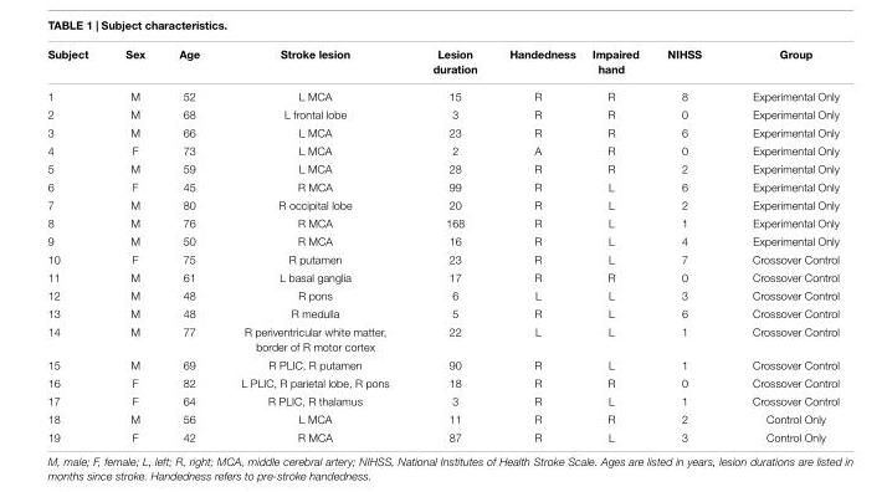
<table><thead><tr><td>Subject</td><td>Sex</td><td>Age</td><td>Stroke lesion</td><td>Lesion duration</td><td>Handedness</td><td>Impaired hand</td><td>NIHSS</td><td>Group</td></tr></thead><tbody><tr><td>1</td><td>M</td><td>52</td><td>L MCA</td><td>15</td><td>R</td><td>R</td><td>8</td><td>Experimental Only</td></tr><tr><td>2</td><td>M</td><td>68</td><td>L frontal lobe</td><td>3</td><td>R</td><td>R</td><td>0</td><td>Experimental Only</td></tr><tr><td>3</td><td>M</td><td>66</td><td>L MCA</td><td>23</td><td>R</td><td>R</td><td>6</td><td>Experimental Only</td></tr><tr><td>4</td><td>F</td><td>73</td><td>L MCA</td><td>2</td><td>A</td><td>R</td><td>0</td><td>Experimental Only</td></tr><tr><td>5</td><td>M</td><td>59</td><td>L MCA</td><td>28</td><td>R</td><td>R</td><td>2</td><td>Experimental Only</td></tr><tr><td>6</td><td>F</td><td>45</td><td>R MCA</td><td>99</td><td>R</td><td>L</td><td>6</td><td>Experimental Only</td></tr><tr><td>7</td><td>M</td><td>80</td><td>R occipital lobe</td><td>20</td><td>R</td><td>L</td><td>2</td><td>Experimental Only</td></tr><tr><td>8</td><td>M</td><td>76</td><td>R MCA</td><td>168</td><td>R</td><td>L</td><td>1</td><td>Experimental Only</td></tr><tr><td>9</td><td>M</td><td>50</td><td>R MCA</td><td>16</td><td>R</td><td>L</td><td>4</td><td>Experimental Only</td></tr><tr><td>10</td><td>F</td><td>75</td><td>R putamen</td><td>23</td><td>R</td><td>L</td><td>7</td><td>Crossover Control</td></tr><tr><td>11</td><td>M</td><td>61</td><td>L basal ganglia</td><td>17</td><td>R</td><td>R</td><td>0</td><td>Crossover Control</td></tr><tr><td>12</td><td>M</td><td>48</td><td>R pons</td><td>6</td><td>L</td><td>L</td><td>3</td><td>Crossover Control</td></tr><tr><td>13</td><td>M</td><td>48</td><td>R medulla</td><td>5</td><td>R</td><td>L</td><td>6</td><td>Crossover Control</td></tr><tr><td>14</td><td>M</td><td>77</td><td>R periventricular white matter, border of R motor cortex</td><td>22</td><td>L</td><td>L</td><td>1</td><td>Crossover Control</td></tr><tr><td>15</td><td>M</td><td>69</td><td>R PLIC, R putamen</td><td>90</td><td>R</td><td>L</td><td>1</td><td>Crossover Control</td></tr><tr><td>16</td><td>F</td><td>82</td><td>L PLIC, R parietal lobe, R pons</td><td>18</td><td>R</td><td>R</td><td>0</td><td>Crossover Control</td></tr><tr><td>17</td><td>F</td><td>64</td><td>R PLIC, R thalamus</td><td>3</td><td>R</td><td>L</td><td>1</td><td>Crossover Control</td></tr><tr><td>18</td><td>M</td><td>56</td><td>L MCA</td><td>11</td><td>R</td><td>R</td><td>2</td><td>Control Only</td></tr><tr><td>19</td><td>F</td><td>42</td><td>R MCA</td><td>87</td><td>R</td><td>L</td><td>3</td><td>Control Only</td></tr></tbody></table>